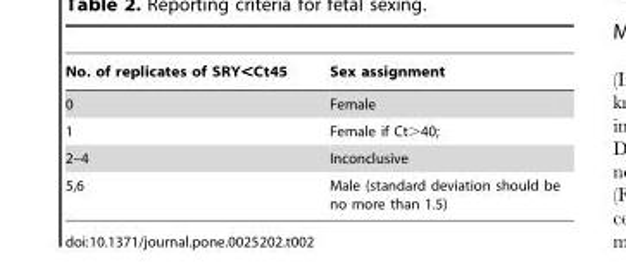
<table><thead><tr><td>No. of replicates of SRY&lt;Ct45</td><td>Sex assignment</td></tr></thead><tbody><tr><td>0</td><td>Female</td></tr><tr><td>1</td><td>Female if Ct&gt;40;</td></tr><tr><td>2–4</td><td>Inconclusive</td></tr><tr><td>5,6</td><td>Male (standard deviation should be no more than 1.5)</td></tr></tbody></table>